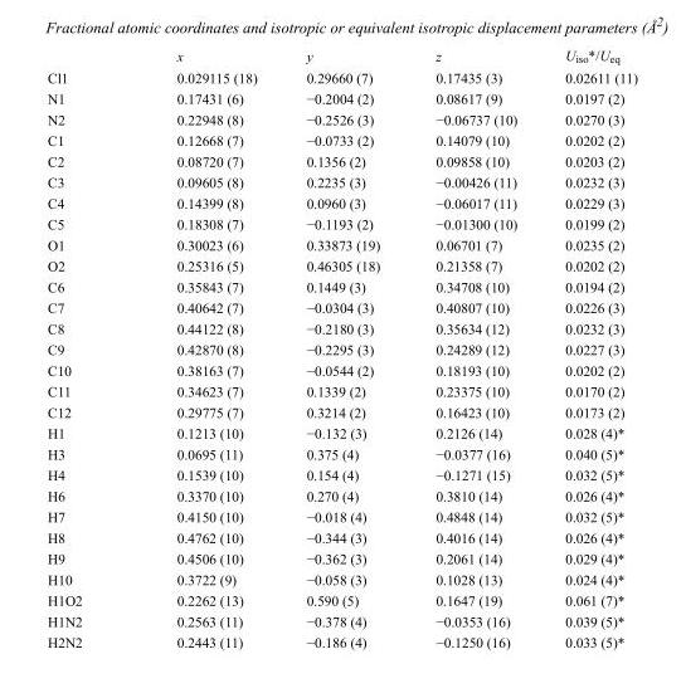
<table><thead><tr><td></td><td>x</td><td>y</td><td>z</td><td>U<sub>iso</sub>*/U<sub>eq</sub></td></tr></thead><tbody><tr><td>Cl1</td><td>0.029115 (18)</td><td>0.29660 (7)</td><td>0.17435 (3)</td><td>0.02611 (11)</td></tr><tr><td>N1</td><td>0.17431 (6)</td><td>−0.2004 (2)</td><td>0.08617 (9)</td><td>0.0197 (2)</td></tr><tr><td>N2</td><td>0.22948 (8)</td><td>−0.2526 (3)</td><td>−0.06737 (10)</td><td>0.0270 (3)</td></tr><tr><td>C1</td><td>0.12668 (7)</td><td>−0.0733 (2)</td><td>0.14079 (10)</td><td>0.0202 (2)</td></tr><tr><td>C2</td><td>0.08720 (7)</td><td>0.1356 (2)</td><td>0.09858 (10)</td><td>0.0203 (2)</td></tr><tr><td>C3</td><td>0.09605 (8)</td><td>0.2235 (3)</td><td>−0.00426 (11)</td><td>0.0232 (3)</td></tr><tr><td>C4</td><td>0.14399 (8)</td><td>0.0960 (3)</td><td>−0.06017 (11)</td><td>0.0229 (3)</td></tr><tr><td>C5</td><td>0.18308 (7)</td><td>−0.1193 (2)</td><td>−0.01300 (10)</td><td>0.0199 (2)</td></tr><tr><td>O1</td><td>0.30023 (6)</td><td>0.33873 (19)</td><td>0.06701 (7)</td><td>0.0235 (2)</td></tr><tr><td>O2</td><td>0.25316 (5)</td><td>0.46305 (18)</td><td>0.21358 (7)</td><td>0.0202 (2)</td></tr><tr><td>C6</td><td>0.35843 (7)</td><td>0.1449 (3)</td><td>0.34708 (10)</td><td>0.0194 (2)</td></tr><tr><td>C7</td><td>0.40642 (7)</td><td>−0.0304 (3)</td><td>0.40807 (10)</td><td>0.0226 (3)</td></tr><tr><td>C8</td><td>0.44122 (8)</td><td>−0.2180 (3)</td><td>0.35634 (12)</td><td>0.0232 (3)</td></tr><tr><td>C9</td><td>0.42870 (8)</td><td>−0.2295 (3)</td><td>0.24289 (12)</td><td>0.0227 (3)</td></tr><tr><td>C10</td><td>0.38163 (7)</td><td>−0.0544 (2)</td><td>0.18193 (10)</td><td>0.0202 (2)</td></tr><tr><td>C11</td><td>0.34623 (7)</td><td>0.1339 (2)</td><td>0.23375 (10)</td><td>0.0170 (2)</td></tr><tr><td>C12</td><td>0.29775 (7)</td><td>0.3214 (2)</td><td>0.16423 (10)</td><td>0.0173 (2)</td></tr><tr><td>H1</td><td>0.1213 (10)</td><td>−0.132 (3)</td><td>0.2126 (14)</td><td>0.028 (4)*</td></tr><tr><td>H3</td><td>0.0695 (11)</td><td>0.375 (4)</td><td>−0.0377 (16)</td><td>0.040 (5)*</td></tr><tr><td>H4</td><td>0.1539 (10)</td><td>0.154 (4)</td><td>−0.1271 (15)</td><td>0.032 (5)*</td></tr><tr><td>H6</td><td>0.3370 (10)</td><td>0.270 (4)</td><td>0.3810 (14)</td><td>0.026 (4)*</td></tr><tr><td>H7</td><td>0.4150 (10)</td><td>−0.018 (4)</td><td>0.4848 (14)</td><td>0.032 (5)*</td></tr><tr><td>H8</td><td>0.4762 (10)</td><td>−0.344 (3)</td><td>0.4016 (14)</td><td>0.026 (4)*</td></tr><tr><td>H9</td><td>0.4506 (10)</td><td>−0.362 (3)</td><td>0.2061 (14)</td><td>0.029 (4)*</td></tr><tr><td>H10</td><td>0.3722 (9)</td><td>−0.058 (3)</td><td>0.1028 (13)</td><td>0.024 (4)*</td></tr><tr><td>H1O2</td><td>0.2262 (13)</td><td>0.590 (5)</td><td>0.1647 (19)</td><td>0.061 (7)*</td></tr><tr><td>H1N2</td><td>0.2563 (11)</td><td>−0.378 (4)</td><td>−0.0353 (16)</td><td>0.039 (5)*</td></tr><tr><td>H2N2</td><td>0.2443 (11)</td><td>−0.186 (4)</td><td>−0.1250 (16)</td><td>0.033 (5)*</td></tr></tbody></table>